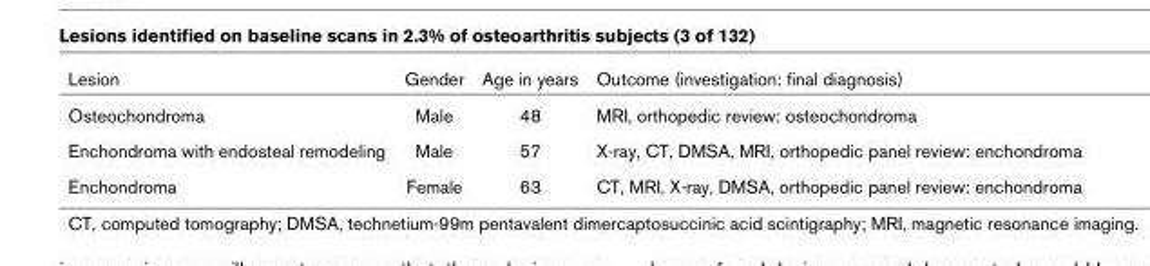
<table><thead><tr><td>Lesion</td><td>Gender</td><td>Age in years</td><td>Outcome (investigation: final diagnosis)</td></tr></thead><tbody><tr><td>Osteochondroma</td><td>Male</td><td>48</td><td>MRI, orthopedic review: osteochondroma</td></tr><tr><td>Enchondroma with endosteal remodeling</td><td>Male</td><td>57</td><td>X-ray, CT, DMSA, MRI, orthopedic panel review: enchondroma</td></tr><tr><td>Enchondroma</td><td>Female</td><td>63</td><td>CT, MRI, X-ray, DMSA, orthopedic panel review: enchondroma</td></tr></tbody></table>